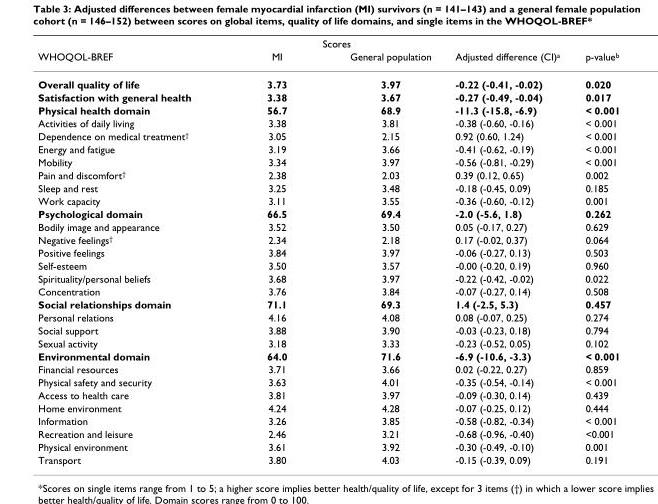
<table><thead><tr><td rowspan="2">WHOQOL-BREF</td><td colspan="2">Scores</td><td rowspan="2">Adjusted difference (CI)<sup>a</sup></td><td rowspan="2">p-value<sup>b</sup></td></tr><tr><td>MI</td><td>General population</td></tr></thead><tbody><tr><td>Overall quality of life</td><td>3.73</td><td>3.97</td><td>-0.22 (-0.41, -0.02)</td><td>0.020</td></tr><tr><td>Satisfaction with general health</td><td>3.38</td><td>3.67</td><td>-0.27 (-0.49, -0.04)</td><td>0.017</td></tr><tr><td>Physical health domain</td><td>56.7</td><td>68.9</td><td>-11.3 (-15.8, -6.9)</td><td>&lt; 0.001</td></tr><tr><td>Activities of daily living</td><td>3.38</td><td>3.81</td><td>-0.38 (-0.60, -0.16)</td><td>&lt; 0.001</td></tr><tr><td>Dependence on medical treatment<sup>†</sup></td><td>3.05</td><td>2.15</td><td>0.92 (0.60, 1.24)</td><td>&lt; 0.001</td></tr><tr><td>Energy and fatigue</td><td>3.19</td><td>3.66</td><td>-0.41 (-0.62, -0.19)</td><td>&lt; 0.001</td></tr><tr><td>Mobility</td><td>3.34</td><td>3.97</td><td>-0.56 (-0.81, -0.29)</td><td>&lt; 0.001</td></tr><tr><td>Pain and discomfort<sup>†</sup></td><td>2.38</td><td>2.03</td><td>0.39 (0.12, 0.65)</td><td>0.002</td></tr><tr><td>Sleep and rest</td><td>3.25</td><td>3.48</td><td>-0.18 (-0.45, 0.09)</td><td>0.185</td></tr><tr><td>Work capacity</td><td>3.11</td><td>3.55</td><td>-0.36 (-0.60, -0.12)</td><td>0.001</td></tr><tr><td>Psychological domain</td><td>66.5</td><td>69.4</td><td>-2.0 (-5.6, 1.8)</td><td>0.262</td></tr><tr><td>Bodily image and appearance</td><td>3.52</td><td>3.50</td><td>0.05 (-0.17, 0.27)</td><td>0.629</td></tr><tr><td>Negative feelings<sup>†</sup></td><td>2.34</td><td>2.18</td><td>0.17 (-0.02, 0.37)</td><td>0.064</td></tr><tr><td>Positive feelings</td><td>3.84</td><td>3.97</td><td>-0.06 (-0.27, 0.13)</td><td>0.503</td></tr><tr><td>Self-esteem</td><td>3.50</td><td>3.57</td><td>-0.00 (-0.20, 0.19)</td><td>0.960</td></tr><tr><td>Spirituality/personal beliefs</td><td>3.68</td><td>3.97</td><td>-0.22 (-0.42, -0.02)</td><td>0.022</td></tr><tr><td>Concentration</td><td>3.76</td><td>3.84</td><td>-0.07 (-0.27, 0.14)</td><td>0.508</td></tr><tr><td>Social relationships domain</td><td>71.1</td><td>69.3</td><td>1.4 (-2.5, 5.3)</td><td>0.457</td></tr><tr><td>Personal relations</td><td>4.16</td><td>4.08</td><td>0.08 (-0.07, 0.25)</td><td>0.274</td></tr><tr><td>Social support</td><td>3.88</td><td>3.90</td><td>-0.03 (-0.23, 0.18)</td><td>0.794</td></tr><tr><td>Sexual activity</td><td>3.18</td><td>3.33</td><td>-0.23 (-0.52, 0.05)</td><td>0.102</td></tr><tr><td>Environmental domain</td><td>64.0</td><td>71.6</td><td>-6.9 (-10.6, -3.3)</td><td>&lt; 0.001</td></tr><tr><td>Financial resources</td><td>3.71</td><td>3.66</td><td>0.02 (-0.22, 0.27)</td><td>0.859</td></tr><tr><td>Physical safety and security</td><td>3.63</td><td>4.01</td><td>-0.35 (-0.54, -0.14)</td><td>&lt; 0.001</td></tr><tr><td>Access to health care</td><td>3.81</td><td>3.97</td><td>-0.09 (-0.30, 0.14)</td><td>0.439</td></tr><tr><td>Home environment</td><td>4.24</td><td>4.28</td><td>-0.07 (-0.25, 0.12)</td><td>0.444</td></tr><tr><td>Information</td><td>3.26</td><td>3.85</td><td>-0.58 (-0.82, -0.34)</td><td>&lt; 0.001</td></tr><tr><td>Recreation and leisure</td><td>2.46</td><td>3.21</td><td>-0.68 (-0.96, -0.40)</td><td>&lt;0.001</td></tr><tr><td>Physical environment</td><td>3.61</td><td>3.92</td><td>-0.30 (-0.49, -0.10)</td><td>0.001</td></tr><tr><td>Transport</td><td>3.80</td><td>4.03</td><td>-0.15 (-0.39, 0.09)</td><td>0.191</td></tr></tbody></table>